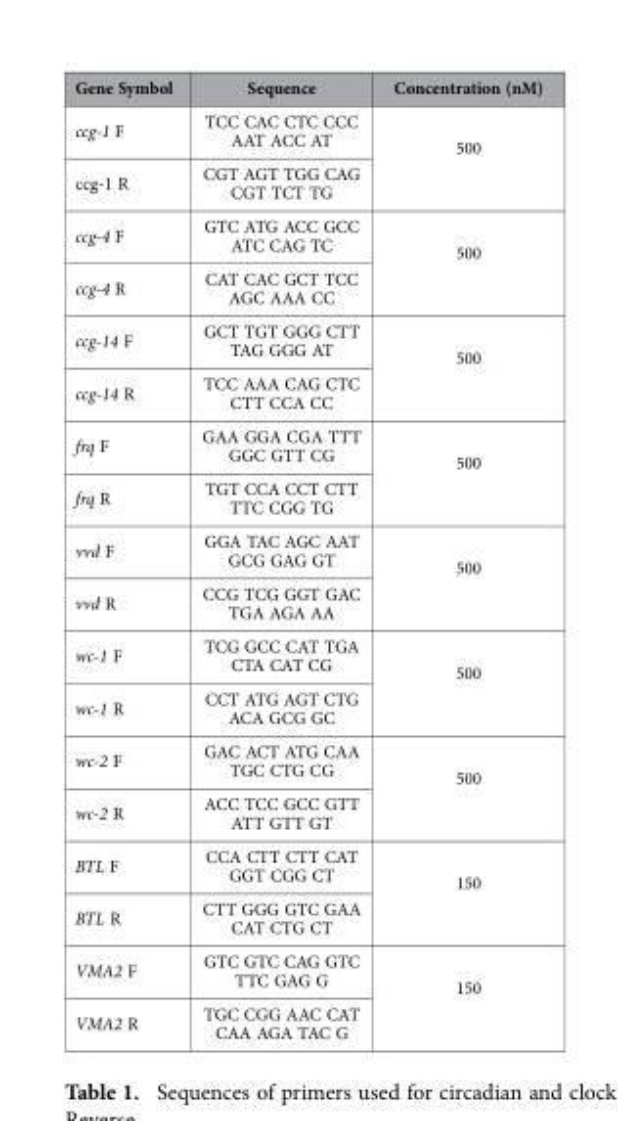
<table><thead><tr><td>Gene Symbol</td><td>Sequence</td><td>Concentration (nM)</td></tr></thead><tbody><tr><td>ccg-1 F</td><td>TCC CAC CTC CCC AAT ACC AT</td><td rowspan="2">500</td></tr><tr><td>ccg-1 R</td><td>CGT AGT TGG CAG CGT TCT TG</td></tr><tr><td>ccg-4 F</td><td>GTC ATG ACC GCC ATC CAG TC</td><td rowspan="2">500</td></tr><tr><td>ccg-4 R</td><td>CAT CAC GCT TCC AGC AAA CC</td></tr><tr><td>ccg-14 F</td><td>GCT TGT GGG CTT TAG GGG AT</td><td rowspan="2">500</td></tr><tr><td>ccg-14 R</td><td>TCC AAA CAG CTC CTT CCA CC</td></tr><tr><td>frq F</td><td>GAA GGA CGA TTT GGC GTT CG</td><td rowspan="2">500</td></tr><tr><td>frq R</td><td>TGT CCA CCT CTT TTC CGG TG</td></tr><tr><td>vvd F</td><td>GGA TAC AGC AAT GCG GAG GT</td><td rowspan="2">500</td></tr><tr><td>vvd R</td><td>CCG TCG GGT GAC TGA AGA AA</td></tr><tr><td>wc-1 F</td><td>TCG GCC CAT TGA CTA CAT CG</td><td rowspan="2">500</td></tr><tr><td>wc-1 R</td><td>CCT ATG AGT CTG ACA GCG GC</td></tr><tr><td>wc-2 F</td><td>GAC ACT ATG CAA TGC CTG CG</td><td rowspan="2">500</td></tr><tr><td>wc-2 R</td><td>ACC TCC GCC GTT ATT GTT GT</td></tr><tr><td>BTL F</td><td>CCA CTT CTT CAT GGT CGG CT</td><td rowspan="2">150</td></tr><tr><td>BTL R</td><td>CTT GGG GTC GAA CAT CTG CT</td></tr><tr><td>VMA2 F</td><td>GTC GTC CAG GTC TTC GAG G</td><td rowspan="2">150</td></tr><tr><td>VMA2 R</td><td>TGC CGG AAC CAT CAA AGA TAC G</td></tr></tbody></table>